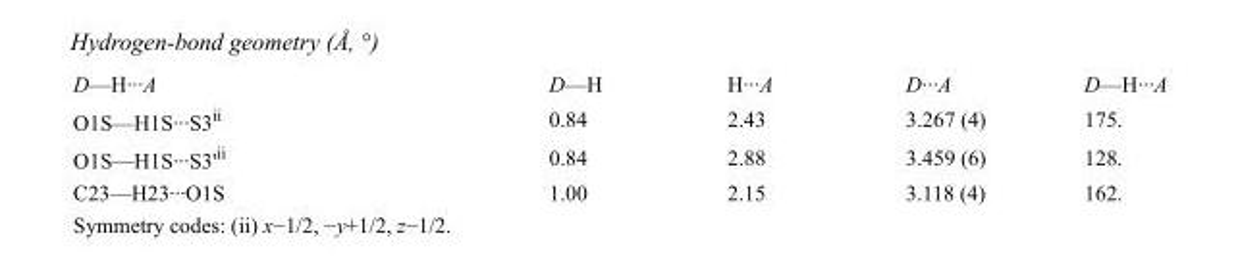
<table><tbody><tr><td>D—H···A</td><td>D—H</td><td>H···A</td><td>D···A</td><td>D—H···A</td></tr><tr><td>O1S—H1S···S3<sup>ii</sup></td><td>0.84</td><td>2.43</td><td>3.267 (4)</td><td>175.</td></tr><tr><td>O1S—H1S···S3&#x27;<sup>ii</sup></td><td>0.84</td><td>2.88</td><td>3.459 (6)</td><td>128.</td></tr><tr><td>C23—H23···O1S</td><td>1.00</td><td>2.15</td><td>3.118 (4)</td><td>162.</td></tr></tbody></table>